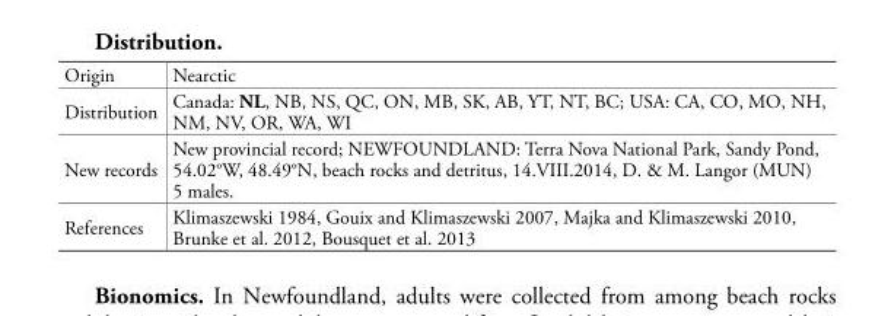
<table><tbody><tr><td>Origin</td><td>Nearctic</td></tr><tr><td>Distribution</td><td>Canada: NL, NB, NS, QC, ON, MB, SK, AB, YT, NT, BC; USA: CA, CO, MO, NH, NM, NV, OR, WA, WI</td></tr><tr><td>New records</td><td>New provincial record; NEWFOUNDLAND: Terra Nova National Park, Sandy Pond, 54.02°W, 48.49°N, beach rocks and detritus, 14.VIII.2014, D. &amp; M. Langor (MUN) 5 males.</td></tr><tr><td>References</td><td>Klimaszewski 1984, Gouix and Klimaszewski 2007, Majka and Klimaszewski 2010, Brunke et al. 2012, Bousquet et al. 2013</td></tr></tbody></table>